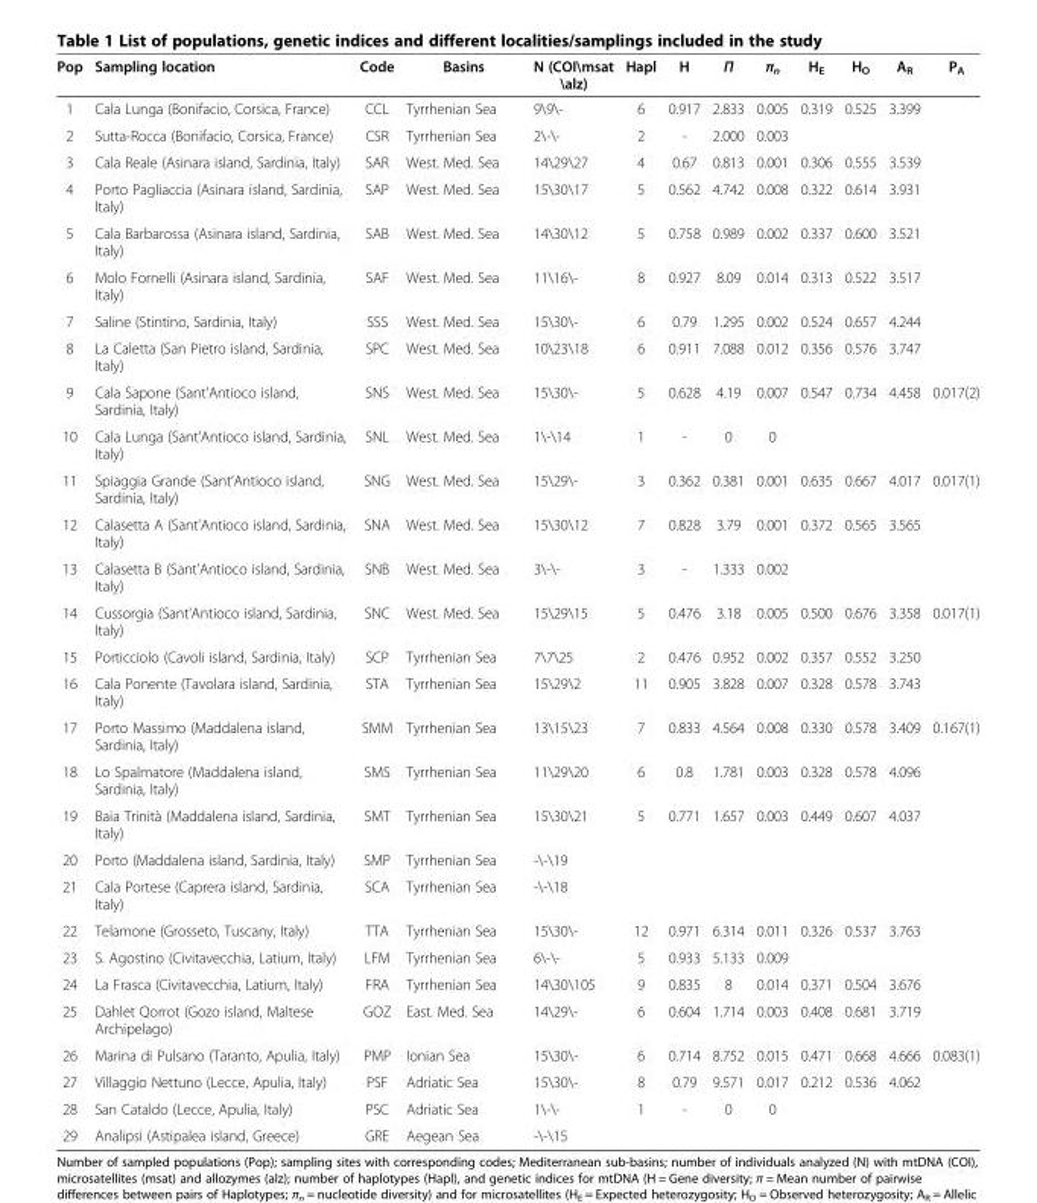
<table><thead><tr><td>Pop</td><td>Sampling location</td><td>Code</td><td>Basins</td><td>N (COI\msat \alz)</td><td>Hapl</td><td>H</td><td>Π</td><td>π<sub>n</sub></td><td>H<sub>E</sub></td><td>H<sub>O</sub></td><td>A<sub>R</sub></td><td>P<sub>A</sub></td></tr></thead><tbody><tr><td>1</td><td>Cala Lunga (Bonifacio, Corsica, France)</td><td>CCL</td><td>Tyrrhenian Sea</td><td>9\9\-</td><td>6</td><td>0.917</td><td>2.833</td><td>0.005</td><td>0.319</td><td>0.525</td><td>3.399</td><td></td></tr><tr><td>2</td><td>Sutta-Rocca (Bonifacio, Corsica, France)</td><td>CSR</td><td>Tyrrhenian Sea</td><td>2\-\-</td><td>2</td><td>-</td><td>2.000</td><td>0.003</td><td></td><td></td><td></td><td></td></tr><tr><td>3</td><td>Cala Reale (Asinara island, Sardinia, Italy)</td><td>SAR</td><td>West. Med. Sea</td><td>14\29\27</td><td>4</td><td>0.67</td><td>0.813</td><td>0.001</td><td>0.306</td><td>0.555</td><td>3.539</td><td></td></tr><tr><td>4</td><td>Porto Pagliaccia (Asinara island, Sardinia, Italy)</td><td>SAP</td><td>West. Med. Sea</td><td>15\30\17</td><td>5</td><td>0.562</td><td>4.742</td><td>0.008</td><td>0.322</td><td>0.614</td><td>3.931</td><td></td></tr><tr><td>5</td><td>Cala Barbarossa (Asinara island, Sardinia, Italy)</td><td>SAB</td><td>West. Med. Sea</td><td>14\30\12</td><td>5</td><td>0.758</td><td>0.989</td><td>0.002</td><td>0.337</td><td>0.600</td><td>3.521</td><td></td></tr><tr><td>6</td><td>Molo Fornelli (Asinara island, Sardinia, Italy)</td><td>SAF</td><td>West. Med. Sea</td><td>11\16\-</td><td>8</td><td>0.927</td><td>8.09</td><td>0.014</td><td>0.313</td><td>0.522</td><td>3.517</td><td></td></tr><tr><td>7</td><td>Saline (Stintino, Sardinia, Italy)</td><td>SSS</td><td>West. Med. Sea</td><td>15\30\-</td><td>6</td><td>0.79</td><td>1.295</td><td>0.002</td><td>0.524</td><td>0.657</td><td>4.244</td><td></td></tr><tr><td>8</td><td>La Caletta (San Pietro island, Sardinia, Italy)</td><td>SPC</td><td>West. Med. Sea</td><td>10\23\18</td><td>6</td><td>0.911</td><td>7.088</td><td>0.012</td><td>0.356</td><td>0.576</td><td>3.747</td><td></td></tr><tr><td>9</td><td>Cala Sapone (Sant’Antioco island, Sardinia, Italy)</td><td>SNS</td><td>West. Med. Sea</td><td>15\30\-</td><td>5</td><td>0.628</td><td>4.19</td><td>0.007</td><td>0.547</td><td>0.734</td><td>4.458</td><td>0.017(2)</td></tr><tr><td>10</td><td>Cala Lunga (Sant’Antioco island, Sardinia, Italy)</td><td>SNL</td><td>West. Med. Sea</td><td>1\-\14</td><td>1</td><td>-</td><td>0</td><td>0</td><td></td><td></td><td></td><td></td></tr><tr><td>11</td><td>Spiaggia Grande (Sant’Antioco island, Sardinia, Italy)</td><td>SNG</td><td>West. Med. Sea</td><td>15\29\-</td><td>3</td><td>0.362</td><td>0.381</td><td>0.001</td><td>0.635</td><td>0.667</td><td>4.017</td><td>0.017(1)</td></tr><tr><td>12</td><td>Calasetta A (Sant’Antioco island, Sardinia, Italy)</td><td>SNA</td><td>West. Med. Sea</td><td>15\30\12</td><td>7</td><td>0.828</td><td>3.79</td><td>0.001</td><td>0.372</td><td>0.565</td><td>3.565</td><td></td></tr><tr><td>13</td><td>Calasetta B (Sant’Antioco island, Sardinia, Italy)</td><td>SNB</td><td>West. Med. Sea</td><td>3\-\-</td><td>3</td><td>-</td><td>1.333</td><td>0.002</td><td></td><td></td><td></td><td></td></tr><tr><td>14</td><td>Cussorgia (Sant’Antioco island, Sardinia, Italy)</td><td>SNC</td><td>West. Med. Sea</td><td>15\29\15</td><td>5</td><td>0.476</td><td>3.18</td><td>0.005</td><td>0.500</td><td>0.676</td><td>3.358</td><td>0.017(1)</td></tr><tr><td>15</td><td>Porticciolo (Cavoli island, Sardinia, Italy)</td><td>SCP</td><td>Tyrrhenian Sea</td><td>7\7\25</td><td>2</td><td>0.476</td><td>0.952</td><td>0.002</td><td>0.357</td><td>0.552</td><td>3.250</td><td></td></tr><tr><td>16</td><td>Cala Ponente (Tavolara island, Sardinia, Italy)</td><td>STA</td><td>Tyrrhenian Sea</td><td>15\29\2</td><td>11</td><td>0.905</td><td>3.828</td><td>0.007</td><td>0.328</td><td>0.578</td><td>3.743</td><td></td></tr><tr><td>17</td><td>Porto Massimo (Maddalena island, Sardinia, Italy)</td><td>SMM</td><td>Tyrrhenian Sea</td><td>13\15\23</td><td>7</td><td>0.833</td><td>4.564</td><td>0.008</td><td>0.330</td><td>0.578</td><td>3.409</td><td>0.167(1)</td></tr><tr><td>18</td><td>Lo Spalmatore (Maddalena island, Sardinia, Italy)</td><td>SMS</td><td>Tyrrhenian Sea</td><td>11\29\20</td><td>6</td><td>0.8</td><td>1.781</td><td>0.003</td><td>0.328</td><td>0.578</td><td>4.096</td><td></td></tr><tr><td>19</td><td>Baia Trinità (Maddalena island, Sardinia, Italy)</td><td>SMT</td><td>Tyrrhenian Sea</td><td>15\30\21</td><td>5</td><td>0.771</td><td>1.657</td><td>0.003</td><td>0.449</td><td>0.607</td><td>4.037</td><td></td></tr><tr><td>20</td><td>Porto (Maddalena island, Sardinia, Italy)</td><td>SMP</td><td>Tyrrhenian Sea</td><td>-\-\19</td><td></td><td></td><td></td><td></td><td></td><td></td><td></td><td></td></tr><tr><td>21</td><td>Cala Portese (Caprera island, Sardinia, Italy)</td><td>SCA</td><td>Tyrrhenian Sea</td><td>-\-\18</td><td></td><td></td><td></td><td></td><td></td><td></td><td></td><td></td></tr><tr><td>22</td><td>Telamone (Grosseto, Tuscany, Italy)</td><td>TTA</td><td>Tyrrhenian Sea</td><td>15\30\-</td><td>12</td><td>0.971</td><td>6.314</td><td>0.011</td><td>0.326</td><td>0.537</td><td>3.763</td><td></td></tr><tr><td>23</td><td>S. Agostino (Civitavecchia, Latium, Italy)</td><td>LFM</td><td>Tyrrhenian Sea</td><td>6\-\-</td><td>5</td><td>0.933</td><td>5.133</td><td>0.009</td><td></td><td></td><td></td><td></td></tr><tr><td>24</td><td>La Frasca (Civitavecchia, Latium, Italy)</td><td>FRA</td><td>Tyrrhenian Sea</td><td>14\30\105</td><td>9</td><td>0.835</td><td>8</td><td>0.014</td><td>0.371</td><td>0.504</td><td>3.676</td><td></td></tr><tr><td>25</td><td>Dahlet Qorrot (Gozo island, Maltese Archipelago)</td><td>GOZ</td><td>East. Med. Sea</td><td>14\29\-</td><td>6</td><td>0.604</td><td>1.714</td><td>0.003</td><td>0.408</td><td>0.681</td><td>3.719</td><td></td></tr><tr><td>26</td><td>Marina di Pulsano (Taranto, Apulia, Italy)</td><td>PMP</td><td>Ionian Sea</td><td>15\30\-</td><td>6</td><td>0.714</td><td>8.752</td><td>0.015</td><td>0.471</td><td>0.668</td><td>4.666</td><td>0.083(1)</td></tr><tr><td>27</td><td>Villaggio Nettuno (Lecce, Apulia, Italy)</td><td>PSF</td><td>Adriatic Sea</td><td>15\30\-</td><td>8</td><td>0.79</td><td>9.571</td><td>0.017</td><td>0.212</td><td>0.536</td><td>4.062</td><td></td></tr><tr><td>28</td><td>San Cataldo (Lecce, Apulia, Italy)</td><td>PSC</td><td>Adriatic Sea</td><td>1\-\-</td><td>1</td><td>-</td><td>0</td><td>0</td><td></td><td></td><td></td><td></td></tr><tr><td>29</td><td>Analipsi (Astipalea island, Greece)</td><td>GRE</td><td>Aegean Sea</td><td>-\-\15</td><td></td><td></td><td></td><td></td><td></td><td></td><td></td><td></td></tr></tbody></table>